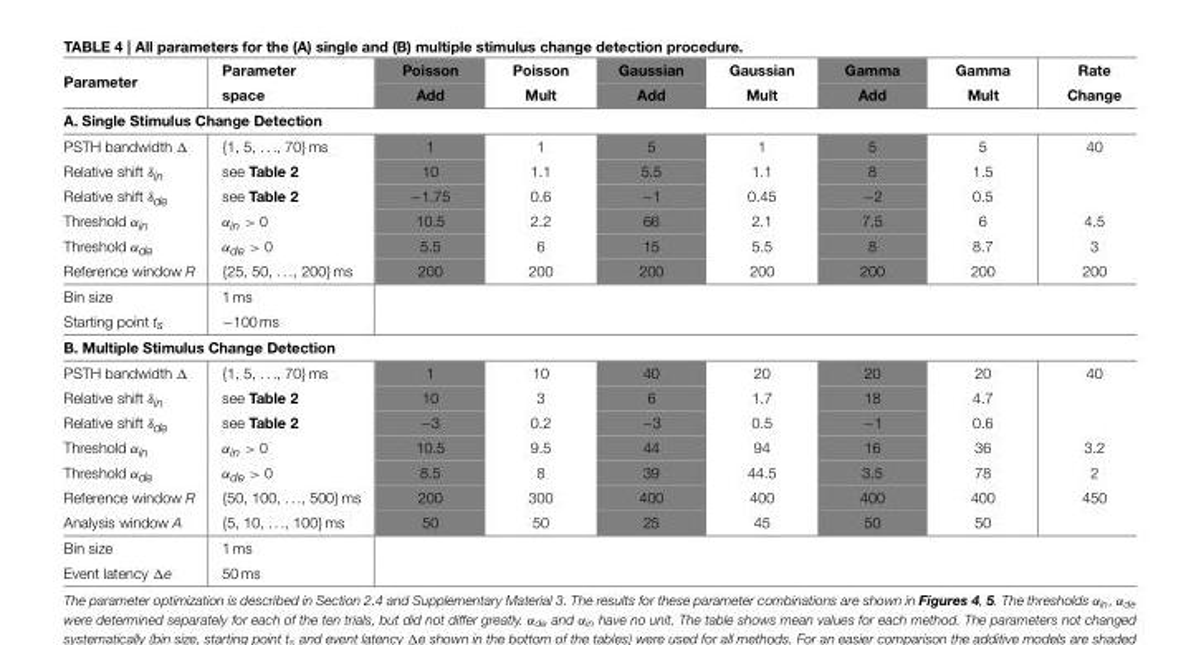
<table><thead><tr><td>Parameter</td><td>Parameter space</td><td>Poisson Add</td><td>Poisson Mult</td><td>Gaussian Add</td><td>Gaussian Mult</td><td>Gamma Add</td><td>Gamma Mult</td><td>Rate Change</td></tr></thead><tbody><tr><td colspan="9">A. Single Stimulus Change Detection</td></tr><tr><td>PSTH bandwidth Δ</td><td>{1, 5, . . ., 70} ms</td><td>1</td><td>1</td><td>5</td><td>1</td><td>5</td><td>5</td><td>40</td></tr><tr><td>Relative shift δ<sub>in</sub></td><td>see Table 2</td><td>10</td><td>1.1</td><td>5.5</td><td>1.1</td><td>8</td><td>1.5</td><td></td></tr><tr><td>Relative shift δ<sub>de</sub></td><td>see Table 2</td><td>−1.75</td><td>0.6</td><td>−1</td><td>0.45</td><td>−2</td><td>0.5</td><td></td></tr><tr><td>Threshold α<sub>in</sub></td><td>α<sub>in</sub> &gt; 0</td><td>10.5</td><td>2.2</td><td>66</td><td>2.1</td><td>7.5</td><td>6</td><td>4.5</td></tr><tr><td>Threshold α<sub>de</sub></td><td>α<sub>de</sub> &gt; 0</td><td>5.5</td><td>6</td><td>15</td><td>5.5</td><td>8</td><td>8.7</td><td>3</td></tr><tr><td>Reference window R</td><td>{25, 50, . . ., 200} ms</td><td>200</td><td>200</td><td>200</td><td>200</td><td>200</td><td>200</td><td>200</td></tr><tr><td>Bin size</td><td>1 ms</td><td></td><td></td><td></td><td></td><td></td><td></td><td></td></tr><tr><td>Starting point t<sub>s</sub></td><td>−100 ms</td><td></td><td></td><td></td><td></td><td></td><td></td><td></td></tr><tr><td colspan="9">B. Multiple Stimulus Change Detection</td></tr><tr><td>PSTH bandwidth Δ</td><td>{1, 5, . . ., 70} ms</td><td>1</td><td>10</td><td>40</td><td>20</td><td>20</td><td>20</td><td>40</td></tr><tr><td>Relative shift δ<sub>in</sub></td><td>see Table 2</td><td>10</td><td>3</td><td>6</td><td>1.7</td><td>18</td><td>4.7</td><td></td></tr><tr><td>Relative shift δ<sub>de</sub></td><td>see Table 2</td><td>−3</td><td>0.2</td><td>−3</td><td>0.5</td><td>−1</td><td>0.6</td><td></td></tr><tr><td>Threshold α<sub>in</sub></td><td>α<sub>in</sub> &gt; 0</td><td>10.5</td><td>9.5</td><td>44</td><td>94</td><td>16</td><td>36</td><td>3.2</td></tr><tr><td>Threshold α<sub>de</sub></td><td>α<sub>de</sub> &gt; 0</td><td>8.5</td><td>8</td><td>39</td><td>44.5</td><td>3.5</td><td>78</td><td>2</td></tr><tr><td>Reference window R</td><td>{50, 100, . . ., 500} ms</td><td>200</td><td>300</td><td>400</td><td>400</td><td>400</td><td>400</td><td>450</td></tr><tr><td>Analysis window A</td><td>{5, 10, . . ., 100} ms</td><td>50</td><td>50</td><td>25</td><td>45</td><td>50</td><td>50</td><td></td></tr><tr><td>Bin size</td><td>1 ms</td><td></td><td></td><td></td><td></td><td></td><td></td><td></td></tr><tr><td>Event latency Δe</td><td>50 ms</td><td></td><td></td><td></td><td></td><td></td><td></td><td></td></tr></tbody></table>